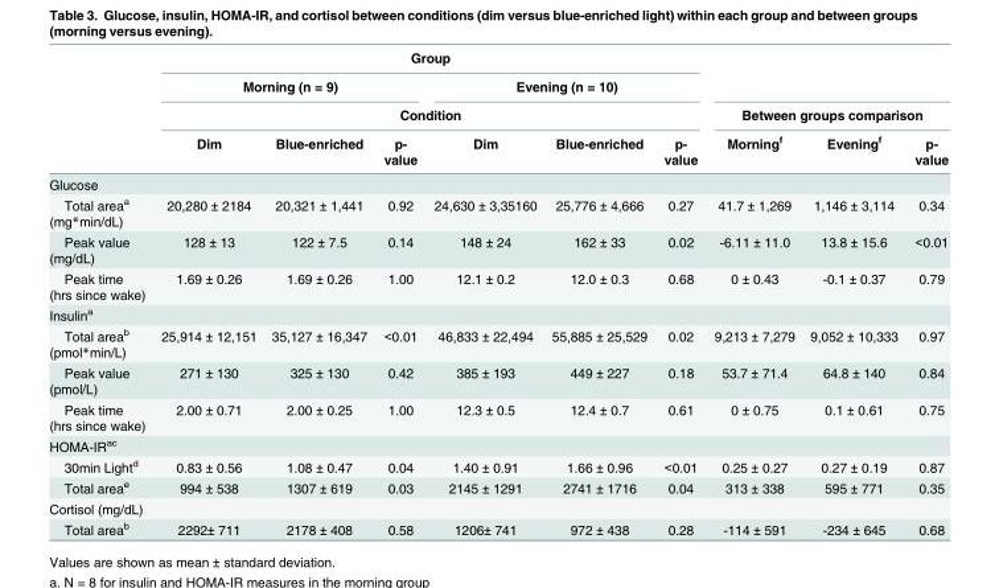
<table><thead><tr><td rowspan="4"></td><td colspan="6">Group</td><td rowspan="2"></td><td rowspan="2"></td><td rowspan="2"></td></tr><tr><td colspan="3">Morning (n = 9)</td><td colspan="3">Evening (n = 10)</td></tr><tr><td colspan="6">Condition</td><td colspan="3">Between groups comparison</td></tr><tr><td>Dim</td><td>Blue-enriched</td><td>p- value</td><td>Dim</td><td>Blue-enriched</td><td>p- value</td><td>Morning<sup>f</sup></td><td>Evening<sup>f</sup></td><td>p- value</td></tr></thead><tbody><tr><td colspan="10">Glucose</td></tr><tr><td>Total area<sup>a</sup> (mg*min/dL)</td><td>20,280 ± 2184</td><td>20,321 ± 1,441</td><td>0.92</td><td>24,630 ± 3,35160</td><td>25,776 ± 4,666</td><td>0.27</td><td>41.7 ± 1,269</td><td>1,146 ± 3,114</td><td>0.34</td></tr><tr><td>Peak value (mg/dL)</td><td>128 ± 13</td><td>122 ± 7.5</td><td>0.14</td><td>148 ± 24</td><td>162 ± 33</td><td>0.02</td><td>-6.11 ± 11.0</td><td>13.8 ± 15.6</td><td>&lt;0.01</td></tr><tr><td>Peak time (hrs since wake)</td><td>1.69 ± 0.26</td><td>1.69 ± 0.26</td><td>1.00</td><td>12.1 ± 0.2</td><td>12.0 ± 0.3</td><td>0.68</td><td>0 ± 0.43</td><td>-0.1 ± 0.37</td><td>0.79</td></tr><tr><td colspan="10">Insulin<sup>a</sup></td></tr><tr><td>Total area<sup>b</sup> (pmol*min/L)</td><td>25,914 ± 12,151</td><td>35,127 ± 16,347</td><td>&lt;0.01</td><td>46,833 ± 22,494</td><td>55,885 ± 25,529</td><td>0.02</td><td>9,213 ± 7,279</td><td>9,052 ± 10,333</td><td>0.97</td></tr><tr><td>Peak value (pmol/L)</td><td>271 ± 130</td><td>325 ± 130</td><td>0.42</td><td>385 ± 193</td><td>449 ± 227</td><td>0.18</td><td>53.7 ± 71.4</td><td>64.8 ± 140</td><td>0.84</td></tr><tr><td>Peak time (hrs since wake)</td><td>2.00 ± 0.71</td><td>2.00 ± 0.25</td><td>1.00</td><td>12.3 ± 0.5</td><td>12.4 ± 0.7</td><td>0.61</td><td>0 ± 0.75</td><td>0.1 ± 0.61</td><td>0.75</td></tr><tr><td colspan="10">HOMA-IR<sup>ac</sup></td></tr><tr><td>30min Light<sup>d</sup></td><td>0.83 ± 0.56</td><td>1.08 ± 0.47</td><td>0.04</td><td>1.40 ± 0.91</td><td>1.66 ± 0.96</td><td>&lt;0.01</td><td>0.25 ± 0.27</td><td>0.27 ± 0.19</td><td>0.87</td></tr><tr><td>Total area<sup>e</sup></td><td>994 ± 538</td><td>1307 ± 619</td><td>0.03</td><td>2145 ± 1291</td><td>2741 ± 1716</td><td>0.04</td><td>313 ± 338</td><td>595 ± 771</td><td>0.35</td></tr><tr><td colspan="10">Cortisol (mg/dL)</td></tr><tr><td>Total area<sup>b</sup></td><td>2292± 711</td><td>2178 ± 408</td><td>0.58</td><td>1206± 741</td><td>972 ± 438</td><td>0.28</td><td>-114 ± 591</td><td>-234 ± 645</td><td>0.68</td></tr></tbody></table>